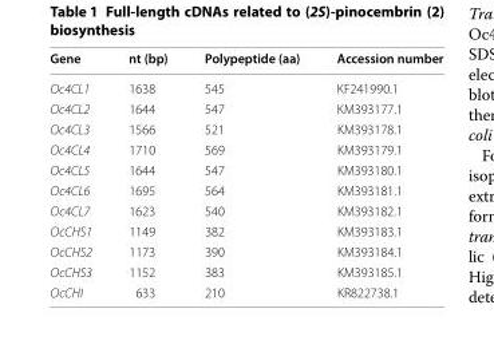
<table><thead><tr><td>Gene</td><td>nt (bp)</td><td>Polypeptide (aa)</td><td>Accession number</td></tr></thead><tbody><tr><td>Oc4CL1</td><td>1638</td><td>545</td><td>KF241990.1</td></tr><tr><td>Oc4CL2</td><td>1644</td><td>547</td><td>KM393177.1</td></tr><tr><td>Oc4CL3</td><td>1566</td><td>521</td><td>KM393178.1</td></tr><tr><td>Oc4CL4</td><td>1710</td><td>569</td><td>KM393179.1</td></tr><tr><td>Oc4CL5</td><td>1644</td><td>547</td><td>KM393180.1</td></tr><tr><td>Oc4CL6</td><td>1695</td><td>564</td><td>KM393181.1</td></tr><tr><td>Oc4CL7</td><td>1623</td><td>540</td><td>KM393182.1</td></tr><tr><td>OcCHS1</td><td>1149</td><td>382</td><td>KM393183.1</td></tr><tr><td>OcCHS2</td><td>1173</td><td>390</td><td>KM393184.1</td></tr><tr><td>OcCHS3</td><td>1152</td><td>383</td><td>KM393185.1</td></tr><tr><td>OcCHI</td><td>633</td><td>210</td><td>KR822738.1</td></tr></tbody></table>